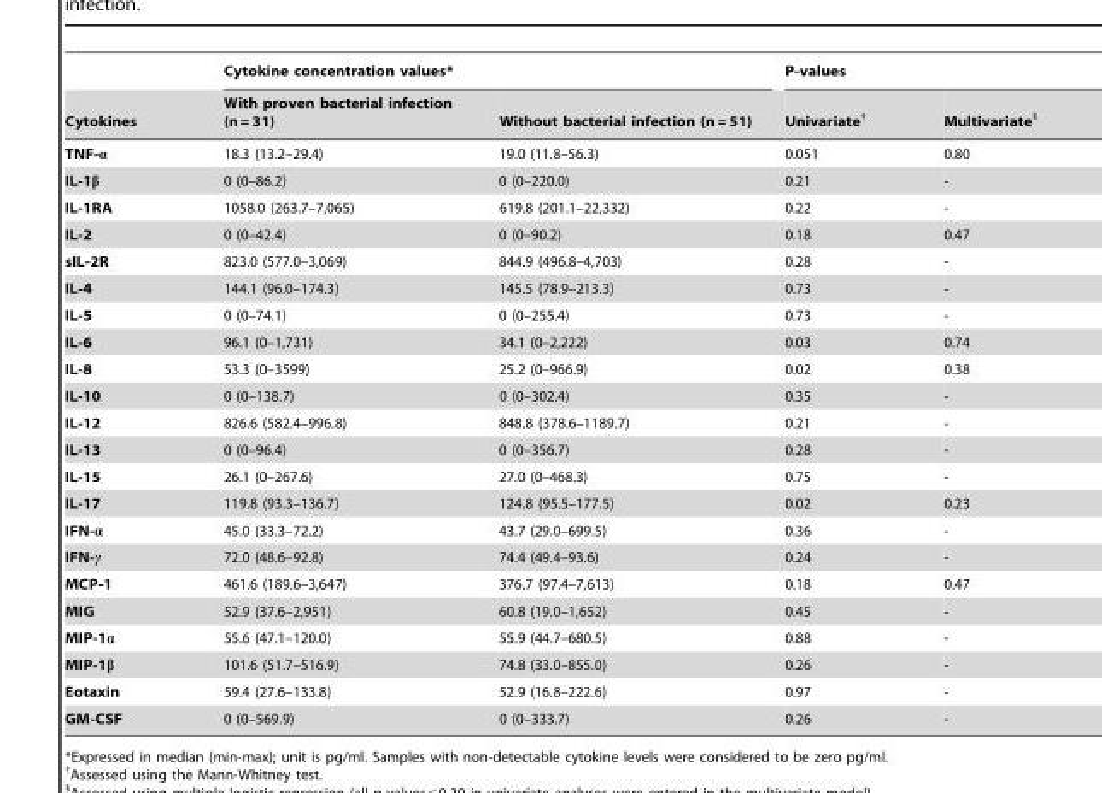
<table><thead><tr><td rowspan="2">Cytokines</td><td colspan="2">Cytokine concentration values*</td><td colspan="2">P-values</td></tr><tr><td>With proven bacterial infection (n = 31)</td><td>Without bacterial infection (n = 51)</td><td>Univariate†</td><td>Multivariate§</td></tr></thead><tbody><tr><td>TNF-α</td><td>18.3 (13.2–29.4)</td><td>19.0 (11.8–56.3)</td><td>0.051</td><td>0.80</td></tr><tr><td>IL-1β</td><td>0 (0–86.2)</td><td>0 (0–220.0)</td><td>0.21</td><td>-</td></tr><tr><td>IL-1RA</td><td>1058.0 (263.7–7,065)</td><td>619.8 (201.1–22,332)</td><td>0.22</td><td>-</td></tr><tr><td>IL-2</td><td>0 (0–42.4)</td><td>0 (0–90.2)</td><td>0.18</td><td>0.47</td></tr><tr><td>sIL-2R</td><td>823.0 (577.0–3,069)</td><td>844.9 (496.8–4,703)</td><td>0.28</td><td>-</td></tr><tr><td>IL-4</td><td>144.1 (96.0–174.3)</td><td>145.5 (78.9–213.3)</td><td>0.73</td><td>-</td></tr><tr><td>IL-5</td><td>0 (0–74.1)</td><td>0 (0–255.4)</td><td>0.73</td><td>-</td></tr><tr><td>IL-6</td><td>96.1 (0–1,731)</td><td>34.1 (0–2,222)</td><td>0.03</td><td>0.74</td></tr><tr><td>IL-8</td><td>53.3 (0–3599)</td><td>25.2 (0–966.9)</td><td>0.02</td><td>0.38</td></tr><tr><td>IL-10</td><td>0 (0–138.7)</td><td>0 (0–302.4)</td><td>0.35</td><td>-</td></tr><tr><td>IL-12</td><td>826.6 (582.4–996.8)</td><td>848.8 (378.6–1189.7)</td><td>0.21</td><td>-</td></tr><tr><td>IL-13</td><td>0 (0–96.4)</td><td>0 (0–356.7)</td><td>0.28</td><td>-</td></tr><tr><td>IL-15</td><td>26.1 (0–267.6)</td><td>27.0 (0–468.3)</td><td>0.75</td><td>-</td></tr><tr><td>IL-17</td><td>119.8 (93.3–136.7)</td><td>124.8 (95.5–177.5)</td><td>0.02</td><td>0.23</td></tr><tr><td>IFN-α</td><td>45.0 (33.3–72.2)</td><td>43.7 (29.0–699.5)</td><td>0.36</td><td>-</td></tr><tr><td>IFN-γ</td><td>72.0 (48.6–92.8)</td><td>74.4 (49.4–93.6)</td><td>0.24</td><td>-</td></tr><tr><td>MCP-1</td><td>461.6 (189.6–3,647)</td><td>376.7 (97.4–7,613)</td><td>0.18</td><td>0.47</td></tr><tr><td>MIG</td><td>52.9 (37.6–2,951)</td><td>60.8 (19.0–1,652)</td><td>0.45</td><td>-</td></tr><tr><td>MIP-1α</td><td>55.6 (47.1–120.0)</td><td>55.9 (44.7–680.5)</td><td>0.88</td><td>-</td></tr><tr><td>MIP-1β</td><td>101.6 (51.7–516.9)</td><td>74.8 (33.0–855.0)</td><td>0.26</td><td>-</td></tr><tr><td>Eotaxin</td><td>59.4 (27.6–133.8)</td><td>52.9 (16.8–222.6)</td><td>0.97</td><td>-</td></tr><tr><td>GM-CSF</td><td>0 (0–569.9)</td><td>0 (0–333.7)</td><td>0.26</td><td>-</td></tr></tbody></table>